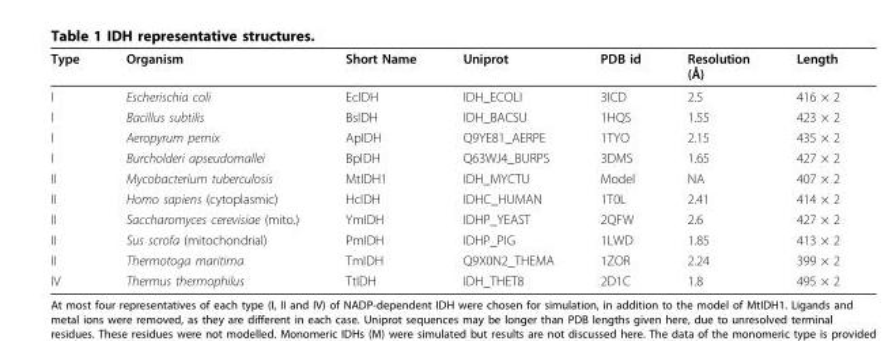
<table><thead><tr><td>Type</td><td>Organism</td><td>Short Name</td><td>Uniprot</td><td>PDB id</td><td>Resolution (Å)</td><td>Length</td></tr></thead><tbody><tr><td>I</td><td>Escherischia coli</td><td>EcIDH</td><td>IDH_ECOLI</td><td>3ICD</td><td>2.5</td><td>416 × 2</td></tr><tr><td>I</td><td>Bacillus subtilis</td><td>BsIDH</td><td>IDH_BACSU</td><td>1HQS</td><td>1.55</td><td>423 × 2</td></tr><tr><td>I</td><td>Aeropyrum pernix</td><td>ApIDH</td><td>Q9YE81_AERPE</td><td>1TYO</td><td>2.15</td><td>435 × 2</td></tr><tr><td>I</td><td>Burcholderi apseudomallei</td><td>BpIDH</td><td>Q63WJ4_BURPS</td><td>3DMS</td><td>1.65</td><td>427 × 2</td></tr><tr><td>II</td><td>Mycobacterium tuberculosis</td><td>MtIDH1</td><td>IDH_MYCTU</td><td>Model</td><td>NA</td><td>407 × 2</td></tr><tr><td>II</td><td>Homo sapiens (cytoplasmic)</td><td>HcIDH</td><td>IDHC_HUMAN</td><td>1T0L</td><td>2.41</td><td>414 × 2</td></tr><tr><td>II</td><td>Saccharomyces cerevisiae (mito.)</td><td>YmIDH</td><td>IDHP_YEAST</td><td>2QFW</td><td>2.6</td><td>427 × 2</td></tr><tr><td>II</td><td>Sus scrofa (mitochondrial)</td><td>PmIDH</td><td>IDHP_PIG</td><td>1LWD</td><td>1.85</td><td>413 × 2</td></tr><tr><td>II</td><td>Thermotoga maritima</td><td>TmIDH</td><td>Q9X0N2_THEMA</td><td>1ZOR</td><td>2.24</td><td>399 × 2</td></tr><tr><td>IV</td><td>Thermus thermophilus</td><td>TtIDH</td><td>IDH_THET8</td><td>2D1C</td><td>1.8</td><td>495 × 2</td></tr></tbody></table>